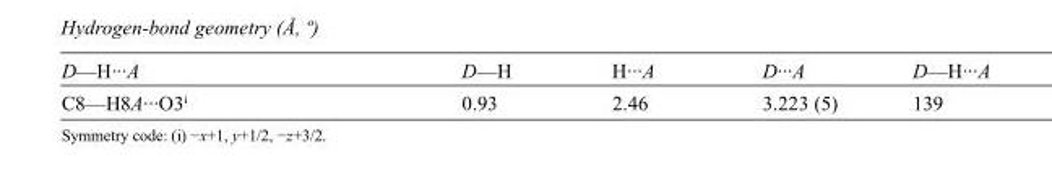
<table><tbody><tr><td>D—H···A</td><td>D—H</td><td>H···A</td><td>D···A</td><td>D—H···A</td></tr><tr><td>C8—H8A···O3<sup>i</sup></td><td>0.93</td><td>2.46</td><td>3.223 (5)</td><td>139</td></tr></tbody></table>